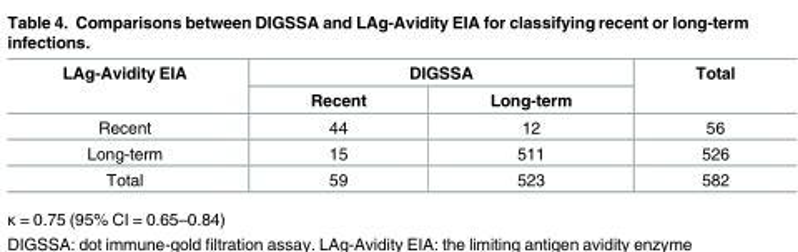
<table><thead><tr><td rowspan="2">LAg-Avidity EIA</td><td colspan="2">DIGSSA</td><td rowspan="2">Total</td></tr><tr><td>Recent</td><td>Long-term</td></tr></thead><tbody><tr><td>Recent</td><td>44</td><td>12</td><td>56</td></tr><tr><td>Long-term</td><td>15</td><td>511</td><td>526</td></tr><tr><td>Total</td><td>59</td><td>523</td><td>582</td></tr></tbody></table>